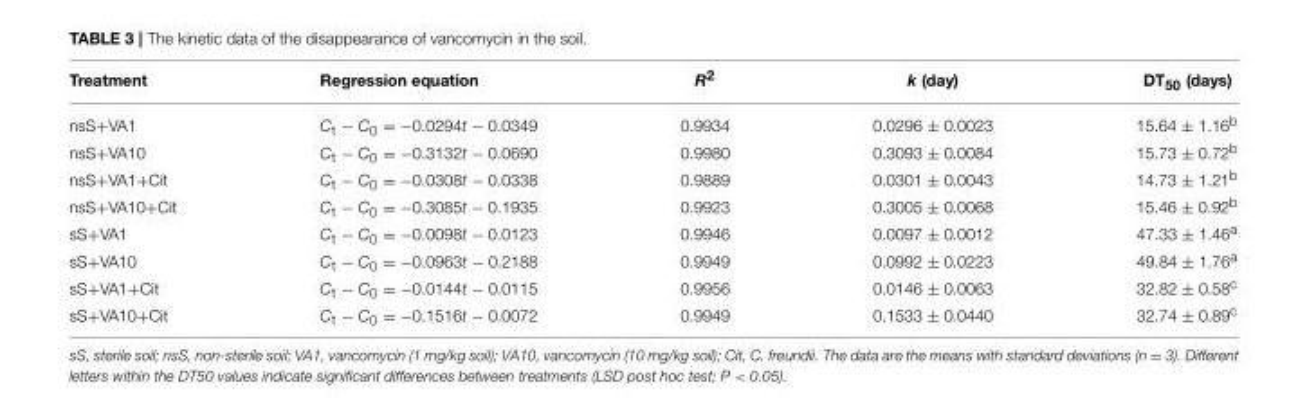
<table><thead><tr><td>Treatment</td><td>Regression equation</td><td>R<sup>2</sup></td><td>k (day)</td><td>DT<sub>50</sub> (days)</td></tr></thead><tbody><tr><td>nsS+VA1</td><td>C<sub>t</sub> − C<sub>0</sub> = −0.0294t − 0.0349</td><td>0.9934</td><td>0.0296 ± 0.0023</td><td>15.64 ± 1.16<sup>b</sup></td></tr><tr><td>nsS+VA10</td><td>C<sub>t</sub> − C<sub>0</sub> = −0.3132t − 0.0690</td><td>0.9980</td><td>0.3093 ± 0.0084</td><td>15.73 ± 0.72<sup>b</sup></td></tr><tr><td>nsS+VA1+Cit</td><td>C<sub>t</sub> − C<sub>0</sub> = −0.0308t − 0.0338</td><td>0.9889</td><td>0.0301 ± 0.0043</td><td>14.73 ± 1.21<sup>b</sup></td></tr><tr><td>nsS+VA10+Cit</td><td>C<sub>t</sub> − C<sub>0</sub> = −0.3085t − 0.1935</td><td>0.9923</td><td>0.3005 ± 0.0068</td><td>15.46 ± 0.92<sup>b</sup></td></tr><tr><td>sS+VA1</td><td>C<sub>t</sub> − C<sub>0</sub> = −0.0098t − 0.0123</td><td>0.9946</td><td>0.0097 ± 0.0012</td><td>47.33 ± 1.46<sup>a</sup></td></tr><tr><td>sS+VA10</td><td>C<sub>t</sub> − C<sub>0</sub> = −0.0963t − 0.2188</td><td>0.9949</td><td>0.0992 ± 0.0223</td><td>49.84 ± 1.76<sup>a</sup></td></tr><tr><td>sS+VA1+Cit</td><td>C<sub>t</sub> − C<sub>0</sub> = −0.0144t − 0.0115</td><td>0.9956</td><td>0.0146 ± 0.0063</td><td>32.82 ± 0.58<sup>c</sup></td></tr><tr><td>sS+VA10+Cit</td><td>C<sub>t</sub> − C<sub>0</sub> = −0.1516t − 0.0072</td><td>0.9949</td><td>0.1533 ± 0.0440</td><td>32.74 ± 0.89<sup>c</sup></td></tr></tbody></table>